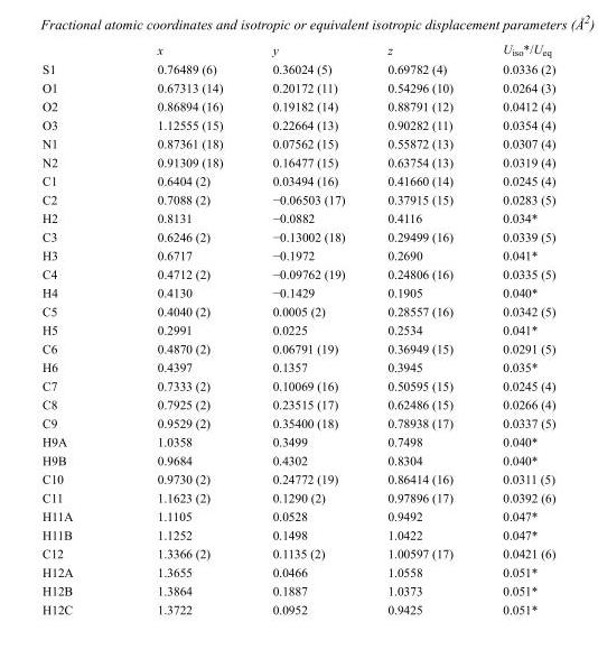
<table><thead><tr><td></td><td>x</td><td>y</td><td>z</td><td>U<sub>iso</sub>*/U<sub>eq</sub></td></tr></thead><tbody><tr><td>S1</td><td>0.76489 (6)</td><td>0.36024 (5)</td><td>0.69782 (4)</td><td>0.0336 (2)</td></tr><tr><td>O1</td><td>0.67313 (14)</td><td>0.20172 (11)</td><td>0.54296 (10)</td><td>0.0264 (3)</td></tr><tr><td>O2</td><td>0.86894 (16)</td><td>0.19182 (14)</td><td>0.88791 (12)</td><td>0.0412 (4)</td></tr><tr><td>O3</td><td>1.12555 (15)</td><td>0.22664 (13)</td><td>0.90282 (11)</td><td>0.0354 (4)</td></tr><tr><td>N1</td><td>0.87361 (18)</td><td>0.07562 (15)</td><td>0.55872 (13)</td><td>0.0307 (4)</td></tr><tr><td>N2</td><td>0.91309 (18)</td><td>0.16477 (15)</td><td>0.63754 (13)</td><td>0.0319 (4)</td></tr><tr><td>C1</td><td>0.6404 (2)</td><td>0.03494 (16)</td><td>0.41660 (14)</td><td>0.0245 (4)</td></tr><tr><td>C2</td><td>0.7088 (2)</td><td>−0.06503 (17)</td><td>0.37915 (15)</td><td>0.0283 (5)</td></tr><tr><td>H2</td><td>0.8131</td><td>−0.0882</td><td>0.4116</td><td>0.034*</td></tr><tr><td>C3</td><td>0.6246 (2)</td><td>−0.13002 (18)</td><td>0.29499 (16)</td><td>0.0339 (5)</td></tr><tr><td>H3</td><td>0.6717</td><td>−0.1972</td><td>0.2690</td><td>0.041*</td></tr><tr><td>C4</td><td>0.4712 (2)</td><td>−0.09762 (19)</td><td>0.24806 (16)</td><td>0.0335 (5)</td></tr><tr><td>H4</td><td>0.4130</td><td>−0.1429</td><td>0.1905</td><td>0.040*</td></tr><tr><td>C5</td><td>0.4040 (2)</td><td>0.0005 (2)</td><td>0.28557 (16)</td><td>0.0342 (5)</td></tr><tr><td>H5</td><td>0.2991</td><td>0.0225</td><td>0.2534</td><td>0.041*</td></tr><tr><td>C6</td><td>0.4870 (2)</td><td>0.06791 (19)</td><td>0.36949 (15)</td><td>0.0291 (5)</td></tr><tr><td>H6</td><td>0.4397</td><td>0.1357</td><td>0.3945</td><td>0.035*</td></tr><tr><td>C7</td><td>0.7333 (2)</td><td>0.10069 (16)</td><td>0.50595 (15)</td><td>0.0245 (4)</td></tr><tr><td>C8</td><td>0.7925 (2)</td><td>0.23515 (17)</td><td>0.62486 (15)</td><td>0.0266 (4)</td></tr><tr><td>C9</td><td>0.9529 (2)</td><td>0.35400 (18)</td><td>0.78938 (17)</td><td>0.0337 (5)</td></tr><tr><td>H9A</td><td>1.0358</td><td>0.3499</td><td>0.7498</td><td>0.040*</td></tr><tr><td>H9B</td><td>0.9684</td><td>0.4302</td><td>0.8304</td><td>0.040*</td></tr><tr><td>C10</td><td>0.9730 (2)</td><td>0.24772 (19)</td><td>0.86414 (16)</td><td>0.0311 (5)</td></tr><tr><td>C11</td><td>1.1623 (2)</td><td>0.1290 (2)</td><td>0.97896 (17)</td><td>0.0392 (6)</td></tr><tr><td>H11A</td><td>1.1105</td><td>0.0528</td><td>0.9492</td><td>0.047*</td></tr><tr><td>H11B</td><td>1.1252</td><td>0.1498</td><td>1.0422</td><td>0.047*</td></tr><tr><td>C12</td><td>1.3366 (2)</td><td>0.1135 (2)</td><td>1.00597 (17)</td><td>0.0421 (6)</td></tr><tr><td>H12A</td><td>1.3655</td><td>0.0466</td><td>1.0558</td><td>0.051*</td></tr><tr><td>H12B</td><td>1.3864</td><td>0.1887</td><td>1.0373</td><td>0.051*</td></tr><tr><td>H12C</td><td>1.3722</td><td>0.0952</td><td>0.9425</td><td>0.051*</td></tr></tbody></table>